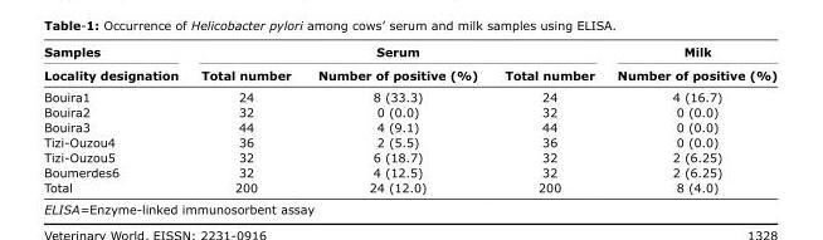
<table><thead><tr><td rowspan="2">Samples Locality designation</td><td colspan="3">Serum</td><td rowspan="2">Milk Number of positive (%)</td></tr><tr><td>Total number</td><td>Number of positive (%)</td><td>Total number</td></tr></thead><tbody><tr><td>Bouira1</td><td>24</td><td>8 (33.3)</td><td>24</td><td>4 (16.7)</td></tr><tr><td>Bouira2</td><td>32</td><td>0 (0.0)</td><td>32</td><td>0 (0.0)</td></tr><tr><td>Bouira3</td><td>44</td><td>4 (9.1)</td><td>44</td><td>0 (0.0)</td></tr><tr><td>Tizi-Ouzou4</td><td>36</td><td>2 (5.5)</td><td>36</td><td>0 (0.0)</td></tr><tr><td>Tizi-Ouzou5</td><td>32</td><td>6 (18.7)</td><td>32</td><td>2 (6.25)</td></tr><tr><td>Boumerdes6</td><td>32</td><td>4 (12.5)</td><td>32</td><td>2 (6.25)</td></tr><tr><td>Total</td><td>200</td><td>24 (12.0)</td><td>200</td><td>8 (4.0)</td></tr></tbody></table>